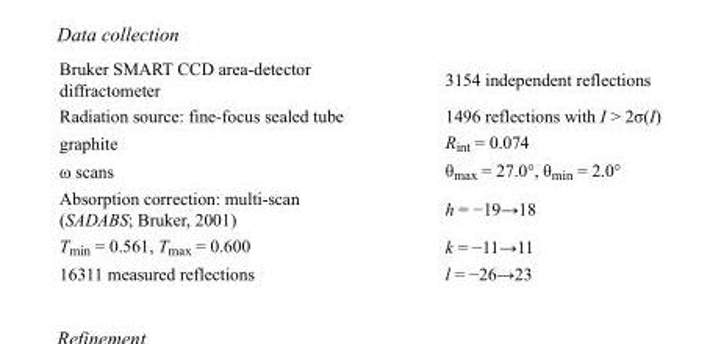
<table><tbody><tr><td>Bruker SMART CCD area-detector diffractometer</td><td>3154 independent reflections</td></tr><tr><td>Radiation source: fine-focus sealed tube</td><td>1496 reflections with I &gt; 2σ(I)</td></tr><tr><td>graphite</td><td>R<sub>int</sub> = 0.074</td></tr><tr><td>ω scans</td><td>θ<sub>max</sub> = 27.0°, θ<sub>min</sub> = 2.0°</td></tr><tr><td>Absorption correction: multi-scan (SADABS; Bruker, 2001)</td><td>h = −19→18</td></tr><tr><td>T<sub>min</sub> = 0.561, T<sub>max</sub> = 0.600</td><td>k = −11→11</td></tr><tr><td>16311 measured reflections</td><td>l = −26→23</td></tr></tbody></table>